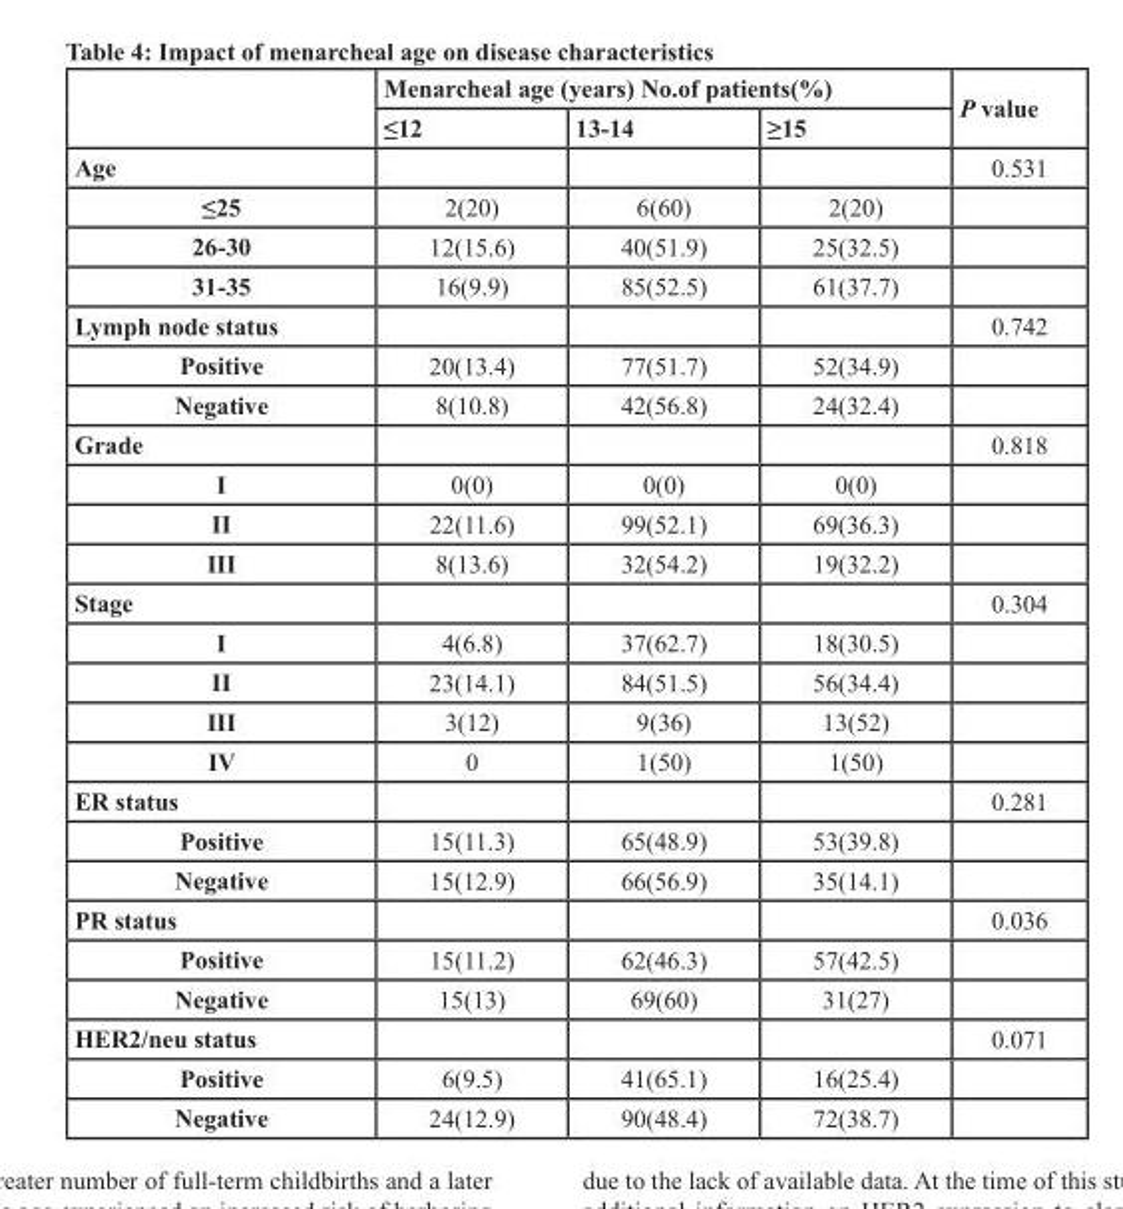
<table><thead><tr><td rowspan="2"></td><td colspan="3">Menarcheal age (years) No.of patients(%)</td><td rowspan="2">P value</td></tr><tr><td>≤12</td><td>13-14</td><td>≥15</td></tr></thead><tbody><tr><td>Age</td><td></td><td></td><td></td><td>0.531</td></tr><tr><td>≤25</td><td>2(20)</td><td>6(60)</td><td>2(20)</td><td></td></tr><tr><td>26-30</td><td>12(15.6)</td><td>40(51.9)</td><td>25(32.5)</td><td></td></tr><tr><td>31-35</td><td>16(9.9)</td><td>85(52.5)</td><td>61(37.7)</td><td></td></tr><tr><td>Lymph node status</td><td></td><td></td><td></td><td>0.742</td></tr><tr><td>Positive</td><td>20(13.4)</td><td>77(51.7)</td><td>52(34.9)</td><td></td></tr><tr><td>Negative</td><td>8(10.8)</td><td>42(56.8)</td><td>24(32.4)</td><td></td></tr><tr><td>Grade</td><td></td><td></td><td></td><td>0.818</td></tr><tr><td>I</td><td>0(0)</td><td>0(0)</td><td>0(0)</td><td></td></tr><tr><td>II</td><td>22(11.6)</td><td>99(52.1)</td><td>69(36.3)</td><td></td></tr><tr><td>III</td><td>8(13.6)</td><td>32(54.2)</td><td>19(32.2)</td><td></td></tr><tr><td>Stage</td><td></td><td></td><td></td><td>0.304</td></tr><tr><td>I</td><td>4(6.8)</td><td>37(62.7)</td><td>18(30.5)</td><td></td></tr><tr><td>II</td><td>23(14.1)</td><td>84(51.5)</td><td>56(34.4)</td><td></td></tr><tr><td>III</td><td>3(12)</td><td>9(36)</td><td>13(52)</td><td></td></tr><tr><td>IV</td><td>0</td><td>1(50)</td><td>1(50)</td><td></td></tr><tr><td>ER status</td><td></td><td></td><td></td><td>0.281</td></tr><tr><td>Positive</td><td>15(11.3)</td><td>65(48.9)</td><td>53(39.8)</td><td></td></tr><tr><td>Negative</td><td>15(12.9)</td><td>66(56.9)</td><td>35(14.1)</td><td></td></tr><tr><td>PR status</td><td></td><td></td><td></td><td>0.036</td></tr><tr><td>Positive</td><td>15(11.2)</td><td>62(46.3)</td><td>57(42.5)</td><td></td></tr><tr><td>Negative</td><td>15(13)</td><td>69(60)</td><td>31(27)</td><td></td></tr><tr><td>HER2/neu status</td><td></td><td></td><td></td><td>0.071</td></tr><tr><td>Positive</td><td>6(9.5)</td><td>41(65.1)</td><td>16(25.4)</td><td></td></tr><tr><td>Negative</td><td>24(12.9)</td><td>90(48.4)</td><td>72(38.7)</td><td></td></tr></tbody></table>